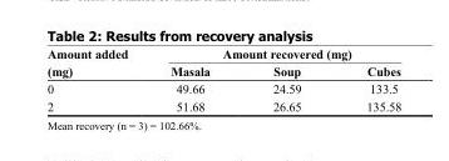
<table><thead><tr><td rowspan="2">Amount added (mg)</td><td colspan="3">Amount recovered (mg)</td></tr><tr><td>Masala</td><td>Soup</td><td>Cubes</td></tr></thead><tbody><tr><td>0</td><td>49.66</td><td>24.59</td><td>133.5</td></tr><tr><td>2</td><td>51.68</td><td>26.65</td><td>135.58</td></tr></tbody></table>